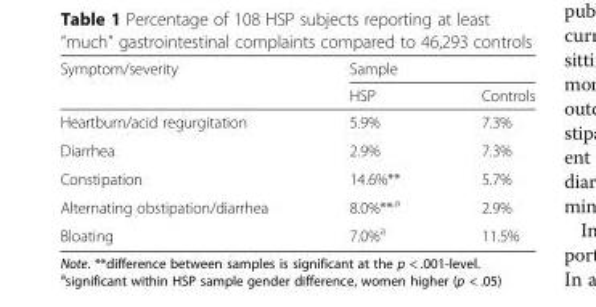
<table><thead><tr><td rowspan="2">Symptom/severity</td><td colspan="2">Sample</td></tr><tr><td>HSP</td><td>Controls</td></tr></thead><tbody><tr><td>Heartburn/acid regurgitation</td><td>5.9%</td><td>7.3%</td></tr><tr><td>Diarrhea</td><td>2.9%</td><td>7.3%</td></tr><tr><td>Constipation</td><td>14.6%**</td><td>5.7%</td></tr><tr><td>Alternating obstipation/diarrhea</td><td>8.0%**<sup>,a</sup></td><td>2.9%</td></tr><tr><td>Bloating</td><td>7.0%<sup>a</sup></td><td>11.5%</td></tr></tbody></table>